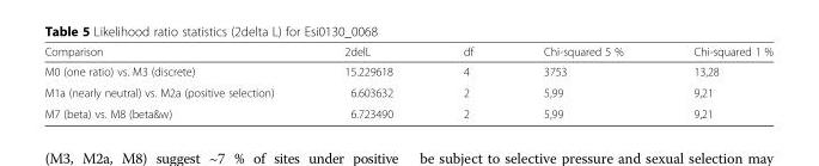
<table><thead><tr><td>Comparison</td><td>2delL</td><td>df</td><td>Chi-squared 5 %</td><td>Chi-squared 1 %</td></tr></thead><tbody><tr><td>M0 (one ratio) vs. M3 (discrete)</td><td>15.229618</td><td>4</td><td>3753</td><td>13,28</td></tr><tr><td>M1a (nearly neutral) vs. M2a (positive selection)</td><td>6.603632</td><td>2</td><td>5,99</td><td>9,21</td></tr><tr><td>M7 (beta) vs. M8 (beta&amp;w)</td><td>6.723490</td><td>2</td><td>5,99</td><td>9,21</td></tr></tbody></table>